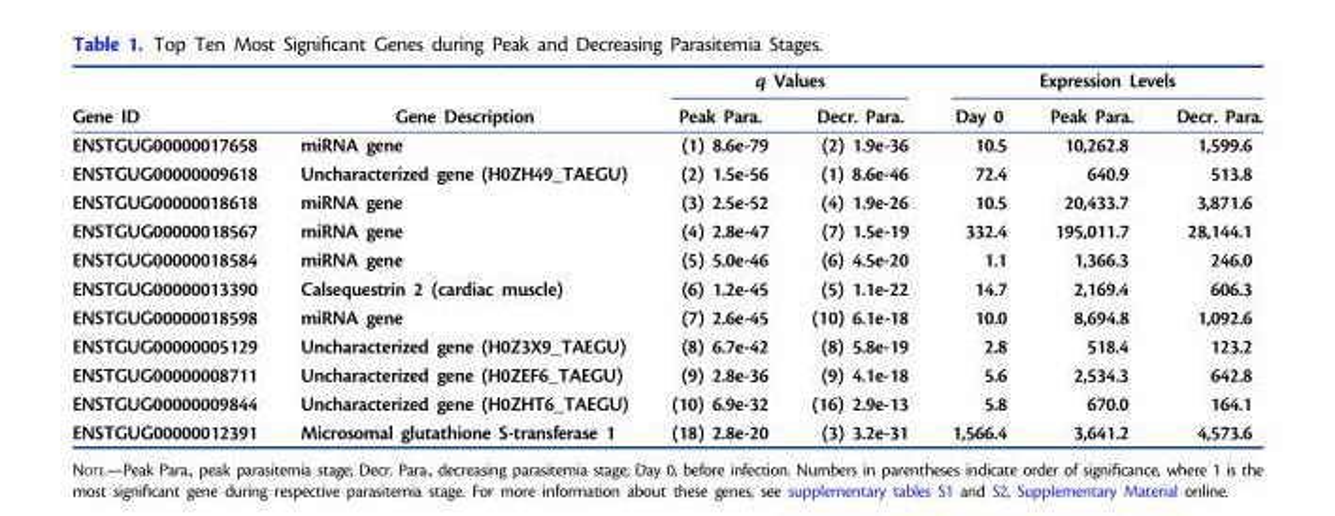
<table><thead><tr><td rowspan="2">Gene ID</td><td rowspan="2">Gene Description</td><td colspan="2">q Values</td><td colspan="3">Expression Levels</td></tr><tr><td>Peak Para.</td><td>Decr. Para.</td><td>Day 0</td><td>Peak Para.</td><td>Decr. Para.</td></tr></thead><tbody><tr><td>ENSTGUG00000017658</td><td>miRNA gene</td><td>(1) 8.6e-79</td><td>(2) 1.9e-36</td><td>10.5</td><td>10,262.8</td><td>1,599.6</td></tr><tr><td>ENSTGUG00000009618</td><td>Uncharacterized gene (H0ZH49_TAEGU)</td><td>(2) 1.5e-56</td><td>(1) 8.6e-46</td><td>72.4</td><td>640.9</td><td>513.8</td></tr><tr><td>ENSTGUG00000018618</td><td>miRNA gene</td><td>(3) 2.5e-52</td><td>(4) 1.9e-26</td><td>10.5</td><td>20,433.7</td><td>3,871.6</td></tr><tr><td>ENSTGUG00000018567</td><td>miRNA gene</td><td>(4) 2.8e-47</td><td>(7) 1.5e-19</td><td>332.4</td><td>195,011.7</td><td>28,144.1</td></tr><tr><td>ENSTGUG00000018584</td><td>miRNA gene</td><td>(5) 5.0e-46</td><td>(6) 4.5e-20</td><td>1.1</td><td>1,366.3</td><td>246.0</td></tr><tr><td>ENSTGUG00000013390</td><td>Calsequestrin 2 (cardiac muscle)</td><td>(6) 1.2e-45</td><td>(5) 1.1e-22</td><td>14.7</td><td>2,169.4</td><td>606.3</td></tr><tr><td>ENSTGUG00000018598</td><td>miRNA gene</td><td>(7) 2.6e-45</td><td>(10) 6.1e-18</td><td>10.0</td><td>8,694.8</td><td>1,092.6</td></tr><tr><td>ENSTGUG00000005129</td><td>Uncharacterized gene (H0Z3X9_TAEGU)</td><td>(8) 6.7e-42</td><td>(8) 5.8e-19</td><td>2.8</td><td>518.4</td><td>123.2</td></tr><tr><td>ENSTGUG00000008711</td><td>Uncharacterized gene (H0ZEF6_TAEGU)</td><td>(9) 2.8e-36</td><td>(9) 4.1e-18</td><td>5.6</td><td>2,534.3</td><td>642.8</td></tr><tr><td>ENSTGUG00000009844</td><td>Uncharacterized gene (H0ZHT6_TAEGU)</td><td>(10) 6.9e-32</td><td>(16) 2.9e-13</td><td>5.8</td><td>670.0</td><td>164.1</td></tr><tr><td>ENSTGUG00000012391</td><td>Microsomal glutathione S-transferase 1</td><td>(18) 2.8e-20</td><td>(3) 3.2e-31</td><td>1,566.4</td><td>3,641.2</td><td>4,573.6</td></tr></tbody></table>